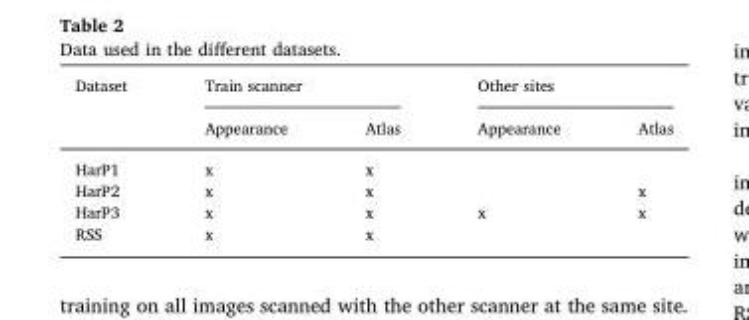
<table><thead><tr><td rowspan="2">Dataset</td><td colspan="2">Train scanner</td><td colspan="2">Other sites</td></tr><tr><td>Appearance</td><td>Atlas</td><td>Appearance</td><td>Atlas</td></tr></thead><tbody><tr><td>HarP1</td><td>x</td><td>x</td><td></td><td></td></tr><tr><td>HarP2</td><td>x</td><td>x</td><td></td><td>x</td></tr><tr><td>HarP3</td><td>x</td><td>x</td><td>x</td><td>x</td></tr><tr><td>RSS</td><td>x</td><td>x</td><td></td><td></td></tr></tbody></table>